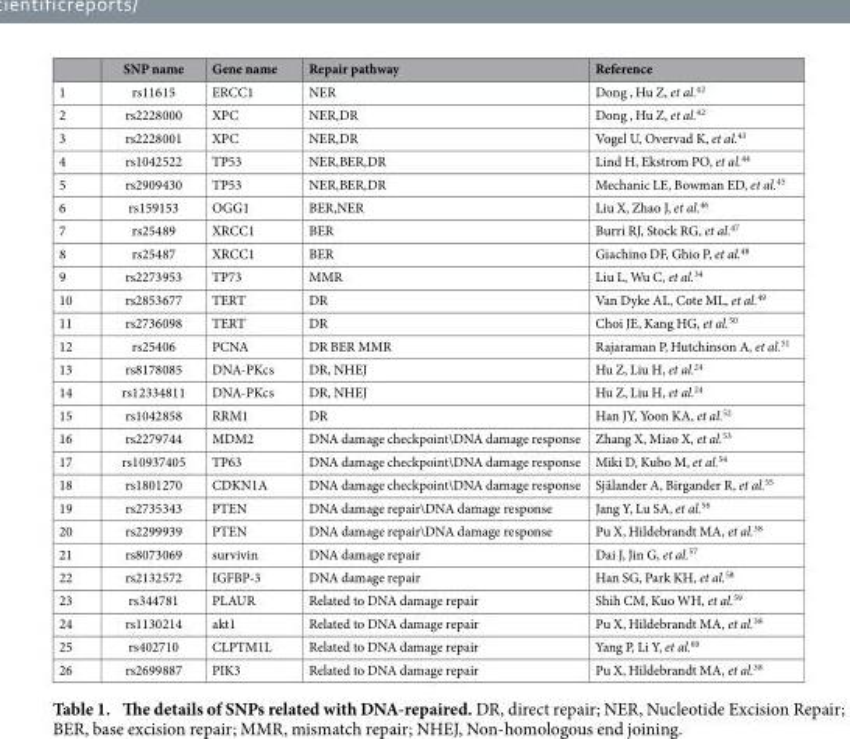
<table><thead><tr><td></td><td>SNP name</td><td>Gene name</td><td>Repair pathway</td><td>Reference</td></tr></thead><tbody><tr><td>1</td><td>rs11615</td><td>ERCC1</td><td>NER</td><td>Dong , Hu Z, et al.<sup>42</sup></td></tr><tr><td>2</td><td>rs2228000</td><td>XPC</td><td>NER,DR</td><td>Dong , Hu Z, et al.<sup>42</sup></td></tr><tr><td>3</td><td>rs2228001</td><td>XPC</td><td>NER,DR</td><td>Vogel U, Overvad K, et al.<sup>43</sup></td></tr><tr><td>4</td><td>rs1042522</td><td>TP53</td><td>NER,BER,DR</td><td>Lind H, Ekstrom PO, et al.<sup>44</sup></td></tr><tr><td>5</td><td>rs2909430</td><td>TP53</td><td>NER,BER,DR</td><td>Mechanic LE, Bowman ED, et al.<sup>45</sup></td></tr><tr><td>6</td><td>rs159153</td><td>OGG1</td><td>BER,NER</td><td>Liu X, Zhao J, et al.<sup>46</sup></td></tr><tr><td>7</td><td>rs25489</td><td>XRCC1</td><td>BER</td><td>Burri RJ, Stock RG, et al.<sup>47</sup></td></tr><tr><td>8</td><td>rs25487</td><td>XRCC1</td><td>BER</td><td>Giachino DF, Ghio P, et al.<sup>48</sup></td></tr><tr><td>9</td><td>rs2273953</td><td>TP73</td><td>MMR</td><td>Liu L, Wu C, et al.<sup>34</sup></td></tr><tr><td>10</td><td>rs2853677</td><td>TERT</td><td>DR</td><td>Van Dyke AL, Cote ML, et al.<sup>49</sup></td></tr><tr><td>11</td><td>rs2736098</td><td>TERT</td><td>DR</td><td>Choi JE, Kang HG, et al.<sup>50</sup></td></tr><tr><td>12</td><td>rs25406</td><td>PCNA</td><td>DR BER MMR</td><td>Rajaraman P, Hutchinson A, et al.<sup>51</sup></td></tr><tr><td>13</td><td>rs8178085</td><td>DNA-PKcs</td><td>DR, NHEJ</td><td>Hu Z, Liu H, et al.<sup>24</sup></td></tr><tr><td>14</td><td>rs12334811</td><td>DNA-PKcs</td><td>DR, NHEJ</td><td>Hu Z, Liu H, et al.<sup>24</sup></td></tr><tr><td>15</td><td>rs1042858</td><td>RRM1</td><td>DR</td><td>Han JY, Yoon KA, et al.<sup>52</sup></td></tr><tr><td>16</td><td>rs2279744</td><td>MDM2</td><td>DNA damage checkpoint\DNA damage response</td><td>Zhang X, Miao X, et al.<sup>53</sup></td></tr><tr><td>17</td><td>rs10937405</td><td>TP63</td><td>DNA damage checkpoint\DNA damage response</td><td>Miki D, Kubo M, et al.<sup>54</sup></td></tr><tr><td>18</td><td>rs1801270</td><td>CDKN1A</td><td>DNA damage checkpoint\DNA damage response</td><td>Själander A, Birgander R, et al.<sup>55</sup></td></tr><tr><td>19</td><td>rs2735343</td><td>PTEN</td><td>DNA damage repair\DNA damage response</td><td>Jang Y, Lu SA, et al.<sup>56</sup></td></tr><tr><td>20</td><td>rs2299939</td><td>PTEN</td><td>DNA damage repair\DNA damage response</td><td>Pu X, Hildebrandt MA, et al.<sup>38</sup></td></tr><tr><td>21</td><td>rs8073069</td><td>survivin</td><td>DNA damage repair</td><td>Dai J, Jin G, et al.<sup>57</sup></td></tr><tr><td>22</td><td>rs2132572</td><td>IGFBP-3</td><td>DNA damage repair</td><td>Han SG, Park KH, et al.<sup>58</sup></td></tr><tr><td>23</td><td>rs344781</td><td>PLAUR</td><td>Related to DNA damage repair</td><td>Shih CM, Kuo WH, et al.<sup>59</sup></td></tr><tr><td>24</td><td>rs1130214</td><td>akt1</td><td>Related to DNA damage repair</td><td>Pu X, Hildebrandt MA, et al.<sup>38</sup></td></tr><tr><td>25</td><td>rs402710</td><td>CLPTM1L</td><td>Related to DNA damage repair</td><td>Yang P, Li Y, et al.<sup>60</sup></td></tr><tr><td>26</td><td>rs2699887</td><td>PIK3</td><td>Related to DNA damage repair</td><td>Pu X, Hildebrandt MA, et al.<sup>38</sup></td></tr></tbody></table>